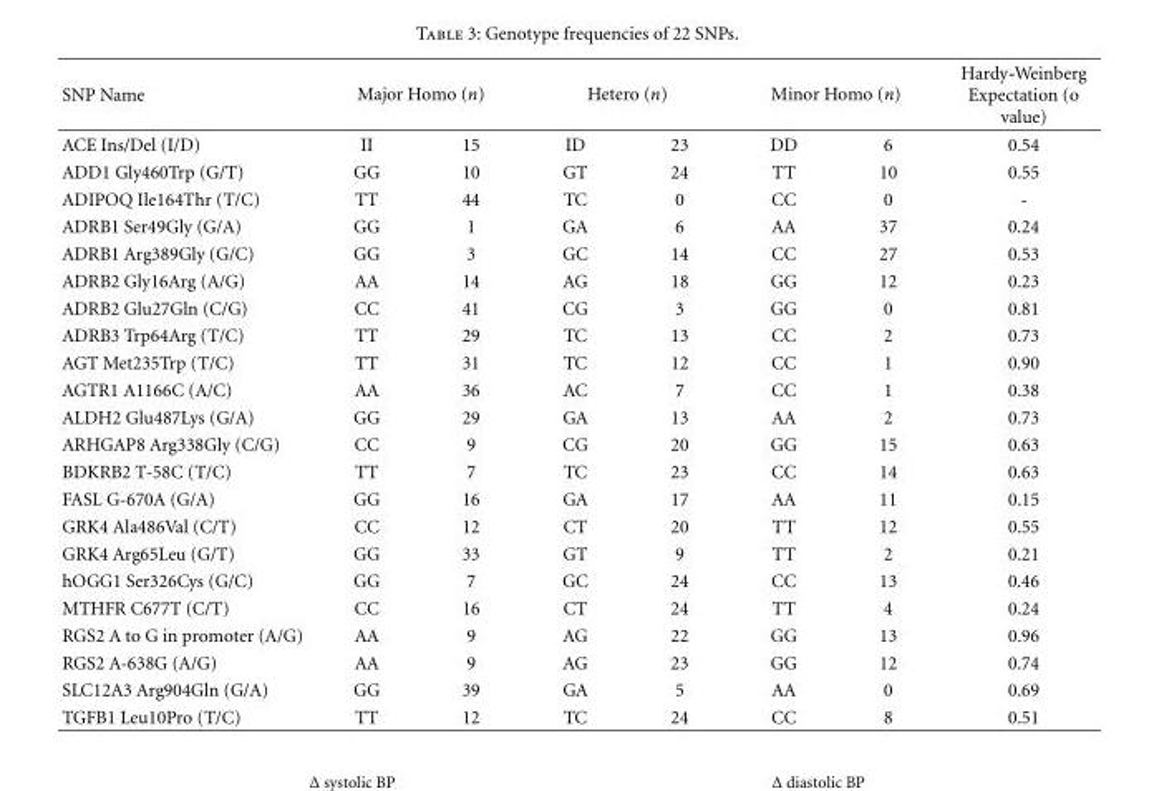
<table><thead><tr><td rowspan="2">SNP Name ACE Ins/Del (I/D)</td><td colspan="2">Major Homo (n)</td><td colspan="2">Hetero (n)</td><td colspan="2">Minor Homo (n)</td><td rowspan="2">Hardy-Weinberg Expectation (o value) 0.54</td></tr><tr><td>II</td><td>15</td><td>ID</td><td>23</td><td>DD</td><td>6</td></tr></thead><tbody><tr><td>ADD1 Gly460Trp (G/T)</td><td>GG</td><td>10</td><td>GT</td><td>24</td><td>TT</td><td>10</td><td>0.55</td></tr><tr><td>ADIPOQ Ile164Thr (T/C)</td><td>TT</td><td>44</td><td>TC</td><td>0</td><td>CC</td><td>0</td><td>-</td></tr><tr><td>ADRB1 Ser49Gly (G/A)</td><td>GG</td><td>1</td><td>GA</td><td>6</td><td>AA</td><td>37</td><td>0.24</td></tr><tr><td>ADRB1 Arg389Gly (G/C)</td><td>GG</td><td>3</td><td>GC</td><td>14</td><td>CC</td><td>27</td><td>0.53</td></tr><tr><td>ADRB2 Gly16Arg (A/G)</td><td>AA</td><td>14</td><td>AG</td><td>18</td><td>GG</td><td>12</td><td>0.23</td></tr><tr><td>ADRB2 Glu27Gln (C/G)</td><td>CC</td><td>41</td><td>CG</td><td>3</td><td>GG</td><td>0</td><td>0.81</td></tr><tr><td>ADRB3 Trp64Arg (T/C)</td><td>TT</td><td>29</td><td>TC</td><td>13</td><td>CC</td><td>2</td><td>0.73</td></tr><tr><td>AGT Met235Trp (T/C)</td><td>TT</td><td>31</td><td>TC</td><td>12</td><td>CC</td><td>1</td><td>0.90</td></tr><tr><td>AGTR1 A1166C (A/C)</td><td>AA</td><td>36</td><td>AC</td><td>7</td><td>CC</td><td>1</td><td>0.38</td></tr><tr><td>ALDH2 Glu487Lys (G/A)</td><td>GG</td><td>29</td><td>GA</td><td>13</td><td>AA</td><td>2</td><td>0.73</td></tr><tr><td>ARHGAP8 Arg338Gly (C/G)</td><td>CC</td><td>9</td><td>CG</td><td>20</td><td>GG</td><td>15</td><td>0.63</td></tr><tr><td>BDKRB2 T-58C (T/C)</td><td>TT</td><td>7</td><td>TC</td><td>23</td><td>CC</td><td>14</td><td>0.63</td></tr><tr><td>FASL G-670A (G/A)</td><td>GG</td><td>16</td><td>GA</td><td>17</td><td>AA</td><td>11</td><td>0.15</td></tr><tr><td>GRK4 Ala486Val (C/T)</td><td>CC</td><td>12</td><td>CT</td><td>20</td><td>TT</td><td>12</td><td>0.55</td></tr><tr><td>GRK4 Arg65Leu (G/T)</td><td>GG</td><td>33</td><td>GT</td><td>9</td><td>TT</td><td>2</td><td>0.21</td></tr><tr><td>hOGG1 Ser326Cys (G/C)</td><td>GG</td><td>7</td><td>GC</td><td>24</td><td>CC</td><td>13</td><td>0.46</td></tr><tr><td>MTHFR C677T (C/T)</td><td>CC</td><td>16</td><td>CT</td><td>24</td><td>TT</td><td>4</td><td>0.24</td></tr><tr><td>RGS2 A to G in promoter (A/G)</td><td>AA</td><td>9</td><td>AG</td><td>22</td><td>GG</td><td>13</td><td>0.96</td></tr><tr><td>RGS2 A-638G (A/G)</td><td>AA</td><td>9</td><td>AG</td><td>23</td><td>GG</td><td>12</td><td>0.74</td></tr><tr><td>SLC12A3 Arg904Gln (G/A)</td><td>GG</td><td>39</td><td>GA</td><td>5</td><td>AA</td><td>0</td><td>0.69</td></tr><tr><td>TGFB1 Leu10Pro (T/C)</td><td>TT</td><td>12</td><td>TC</td><td>24</td><td>CC</td><td>8</td><td>0.51</td></tr></tbody></table>